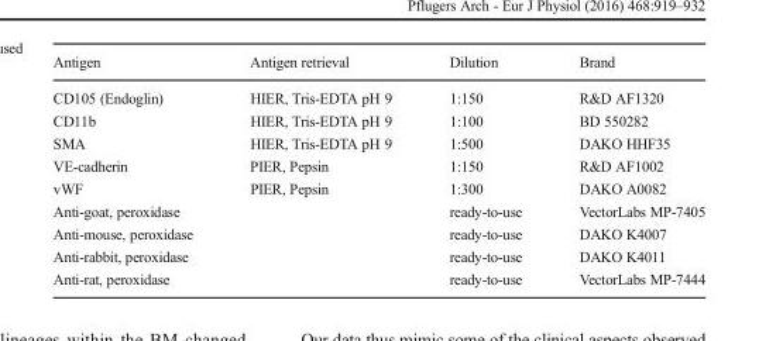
<table><thead><tr><td>Antigen</td><td>Antigen retrieval</td><td>Dilution</td><td>Brand</td></tr></thead><tbody><tr><td>CD105 (Endoglin)</td><td>HIER, Tris-EDTA pH 9</td><td>1:150</td><td>R&amp;D AF1320</td></tr><tr><td>CD11b</td><td>HIER, Tris-EDTA pH 9</td><td>1:100</td><td>BD 550282</td></tr><tr><td>SMA</td><td>HIER, Tris-EDTA pH 9</td><td>1:500</td><td>DAKO HHF35</td></tr><tr><td>VE-cadherin</td><td>PIER, Pepsin</td><td>1:150</td><td>R&amp;D AF1002</td></tr><tr><td>vWF</td><td>PIER, Pepsin</td><td>1:300</td><td>DAKO A0082</td></tr><tr><td>Anti-goat, peroxidase</td><td></td><td>ready-to-use</td><td>VectorLabs MP-7405</td></tr><tr><td>Anti-mouse, peroxidase</td><td></td><td>ready-to-use</td><td>DAKO K4007</td></tr><tr><td>Anti-rabbit, peroxidase</td><td></td><td>ready-to-use</td><td>DAKO K4011</td></tr><tr><td>Anti-rat, peroxidase</td><td></td><td>ready-to-use</td><td>VectorLabs MP-7444</td></tr></tbody></table>